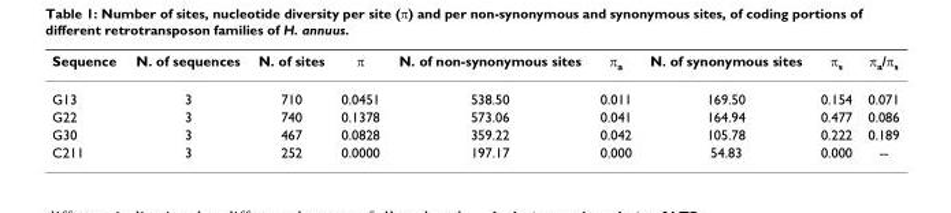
<table><thead><tr><td>Sequence</td><td>N. of sequences</td><td>N. of sites</td><td>π</td><td>N. of non-synonymous sites</td><td>π<sub>a</sub></td><td>N. of synonymous sites</td><td>π<sub>s</sub></td><td>π<sub>a</sub>/π<sub>s</sub></td></tr></thead><tbody><tr><td>G13</td><td>3</td><td>710</td><td>0.0451</td><td>538.50</td><td>0.011</td><td>169.50</td><td>0.154</td><td>0.071</td></tr><tr><td>G22</td><td>3</td><td>740</td><td>0.1378</td><td>573.06</td><td>0.041</td><td>164.94</td><td>0.477</td><td>0.086</td></tr><tr><td>G30</td><td>3</td><td>467</td><td>0.0828</td><td>359.22</td><td>0.042</td><td>105.78</td><td>0.222</td><td>0.189</td></tr><tr><td>C211</td><td>3</td><td>252</td><td>0.0000</td><td>197.17</td><td>0.000</td><td>54.83</td><td>0.000</td><td>--</td></tr></tbody></table>